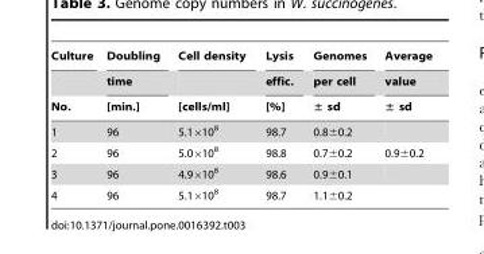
<table><thead><tr><td rowspan="3">Culture No.</td><td rowspan="3">Doubling time [min.]</td><td rowspan="3">Cell density [cells/ml]</td><td rowspan="3">Lysis effic. [%]</td><td rowspan="3">Genomes per cell ± sd</td><td rowspan="3">Average value ± sd</td></tr><tr></tr><tr></tr></thead><tbody><tr><td>1</td><td>96</td><td>5.1×10<sup>8</sup></td><td>98.7</td><td>0.8±0.2</td><td></td></tr><tr><td>2</td><td>96</td><td>5.0×10<sup>8</sup></td><td>98.8</td><td>0.7±0.2</td><td>0.9±0.2</td></tr><tr><td>3</td><td>96</td><td>4.9×10<sup>8</sup></td><td>98.6</td><td>0.9±0.1</td><td></td></tr><tr><td>4</td><td>96</td><td>5.1×10<sup>8</sup></td><td>98.7</td><td>1.1±0.2</td><td></td></tr></tbody></table>